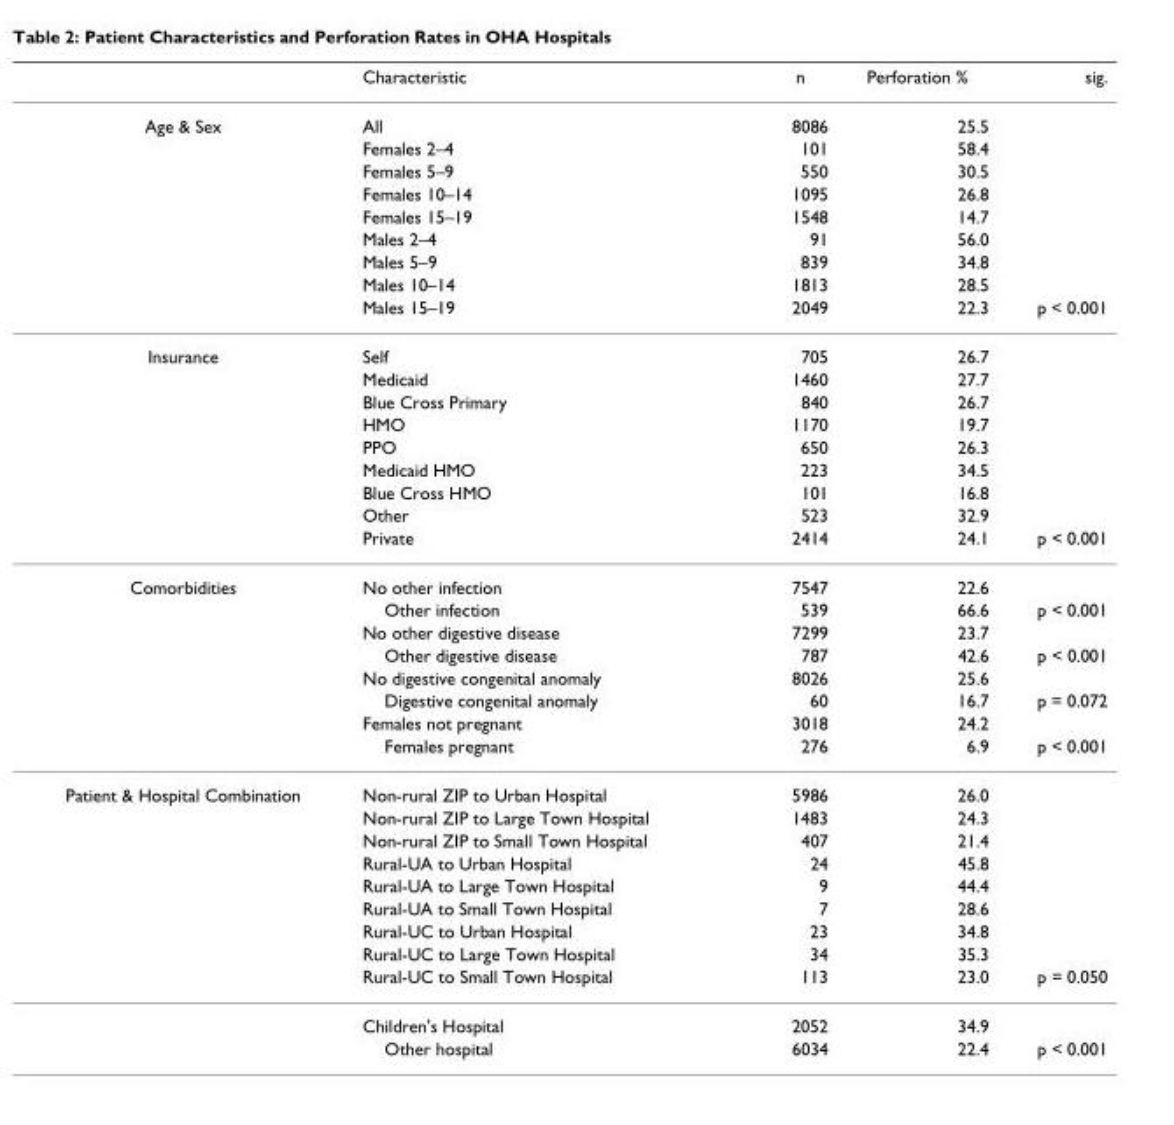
<table><thead><tr><td></td><td>Characteristic</td><td>n</td><td>Perforation %</td><td>sig.</td></tr></thead><tbody><tr><td rowspan="9">Age &amp; Sex</td><td>All</td><td>8086</td><td>25.5</td><td></td></tr><tr><td>Females 2–4</td><td>101</td><td>58.4</td><td></td></tr><tr><td>Females 5–9</td><td>550</td><td>30.5</td><td></td></tr><tr><td>Females 10–14</td><td>1095</td><td>26.8</td><td></td></tr><tr><td>Females 15–19</td><td>1548</td><td>14.7</td><td></td></tr><tr><td>Males 2–4</td><td>91</td><td>56.0</td><td></td></tr><tr><td>Males 5–9</td><td>839</td><td>34.8</td><td></td></tr><tr><td>Males 10–14</td><td>1813</td><td>28.5</td><td></td></tr><tr><td>Males 15–19</td><td>2049</td><td>22.3</td><td>p &lt; 0.001</td></tr><tr><td rowspan="9">Insurance</td><td>Self</td><td>705</td><td>26.7</td><td></td></tr><tr><td>Medicaid</td><td>1460</td><td>27.7</td><td></td></tr><tr><td>Blue Cross Primary</td><td>840</td><td>26.7</td><td></td></tr><tr><td>HMO</td><td>1170</td><td>19.7</td><td></td></tr><tr><td>PPO</td><td>650</td><td>26.3</td><td></td></tr><tr><td>Medicaid HMO</td><td>223</td><td>34.5</td><td></td></tr><tr><td>Blue Cross HMO</td><td>101</td><td>16.8</td><td></td></tr><tr><td>Other</td><td>523</td><td>32.9</td><td></td></tr><tr><td>Private</td><td>2414</td><td>24.1</td><td>p &lt; 0.001</td></tr><tr><td rowspan="8">Comorbidities</td><td>No other infection</td><td>7547</td><td>22.6</td><td></td></tr><tr><td>Other infection</td><td>539</td><td>66.6</td><td>p &lt; 0.001</td></tr><tr><td>No other digestive disease</td><td>7299</td><td>23.7</td><td></td></tr><tr><td>Other digestive disease</td><td>787</td><td>42.6</td><td>p &lt; 0.001</td></tr><tr><td>No digestive congenital anomaly</td><td>8026</td><td>25.6</td><td></td></tr><tr><td>Digestive congenital anomaly</td><td>60</td><td>16.7</td><td>p = 0.072</td></tr><tr><td>Females not pregnant</td><td>3018</td><td>24.2</td><td></td></tr><tr><td>Females pregnant</td><td>276</td><td>6.9</td><td>p &lt; 0.001</td></tr><tr><td rowspan="11">Patient &amp; Hospital Combination</td><td>Non-rural ZIP to Urban Hospital</td><td>5986</td><td>26.0</td><td></td></tr><tr><td>Non-rural ZIP to Large Town Hospital</td><td>1483</td><td>24.3</td><td></td></tr><tr><td>Non-rural ZIP to Small Town Hospital</td><td>407</td><td>21.4</td><td></td></tr><tr><td>Rural-UA to Urban Hospital</td><td>24</td><td>45.8</td><td></td></tr><tr><td>Rural-UA to Large Town Hospital</td><td>9</td><td>44.4</td><td></td></tr><tr><td>Rural-UA to Small Town Hospital</td><td>7</td><td>28.6</td><td></td></tr><tr><td>Rural-UC to Urban Hospital</td><td>23</td><td>34.8</td><td></td></tr><tr><td>Rural-UC to Large Town Hospital</td><td>34</td><td>35.3</td><td></td></tr><tr><td>Rural-UC to Small Town Hospital</td><td>113</td><td>23.0</td><td>p = 0.050</td></tr><tr><td>Children&#x27;s Hospital</td><td>2052</td><td>34.9</td><td></td></tr><tr><td>Other hospital</td><td>6034</td><td>22.4</td><td>p &lt; 0.001</td></tr></tbody></table>